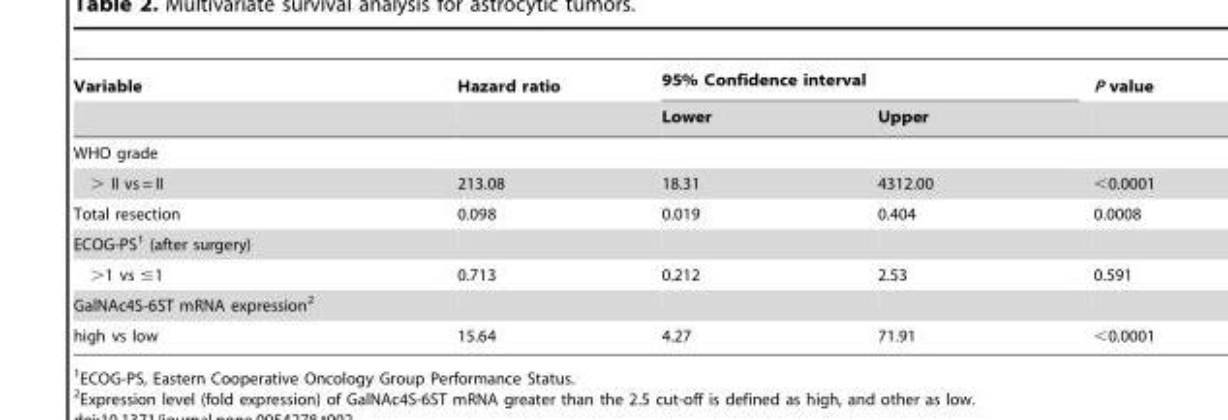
<table><thead><tr><td rowspan="2">Variable</td><td rowspan="2">Hazard ratio</td><td colspan="2">95% Confidence interval</td><td rowspan="2">P value</td></tr><tr><td>Lower</td><td>Upper</td></tr></thead><tbody><tr><td colspan="5">WHO grade</td></tr><tr><td>&gt; II vs = II</td><td>213.08</td><td>18.31</td><td>4312.00</td><td>&lt;0.0001</td></tr><tr><td>Total resection</td><td>0.098</td><td>0.019</td><td>0.404</td><td>0.0008</td></tr><tr><td colspan="5">ECOG-PS<sup>1</sup> (after surgery)</td></tr><tr><td>&gt;1 vs ≤1</td><td>0.713</td><td>0.212</td><td>2.53</td><td>0.591</td></tr><tr><td colspan="5">GalNAc4S-6ST mRNA expression<sup>2</sup></td></tr><tr><td>high vs low</td><td>15.64</td><td>4.27</td><td>71.91</td><td>&lt;0.0001</td></tr></tbody></table>